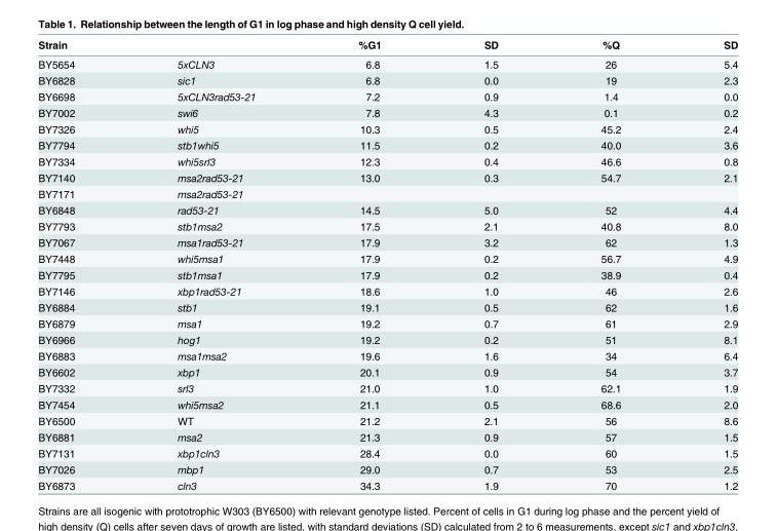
<table><thead><tr><td>Strain</td><td></td><td>%G1</td><td>SD</td><td>%Q</td><td>SD</td></tr></thead><tbody><tr><td>BY5654</td><td>5xCLN3</td><td>6.8</td><td>1.5</td><td>26</td><td>5.4</td></tr><tr><td>BY6828</td><td>sic1</td><td>6.8</td><td>0.0</td><td>19</td><td>2.3</td></tr><tr><td>BY6698</td><td>5xCLN3rad53-21</td><td>7.2</td><td>0.9</td><td>1.4</td><td>0.0</td></tr><tr><td>BY7002</td><td>swi6</td><td>7.8</td><td>4.3</td><td>0.1</td><td>0.2</td></tr><tr><td>BY7326</td><td>whi5</td><td>10.3</td><td>0.5</td><td>45.2</td><td>2.4</td></tr><tr><td>BY7794</td><td>stb1whi5</td><td>11.5</td><td>0.2</td><td>40.0</td><td>3.6</td></tr><tr><td>BY7334</td><td>whi5srl3</td><td>12.3</td><td>0.4</td><td>46.6</td><td>0.8</td></tr><tr><td>BY7140</td><td>msa2rad53-21</td><td>13.0</td><td>0.3</td><td>54.7</td><td>2.1</td></tr><tr><td>BY7171</td><td>msa2rad53-21</td><td></td><td></td><td></td><td></td></tr><tr><td>BY6848</td><td>rad53-21</td><td>14.5</td><td>5.0</td><td>52</td><td>4.4</td></tr><tr><td>BY7793</td><td>stb1msa2</td><td>17.5</td><td>2.1</td><td>40.8</td><td>8.0</td></tr><tr><td>BY7067</td><td>msa1rad53-21</td><td>17.9</td><td>3.2</td><td>62</td><td>1.3</td></tr><tr><td>BY7448</td><td>whi5msa1</td><td>17.9</td><td>0.2</td><td>56.7</td><td>4.9</td></tr><tr><td>BY7795</td><td>stb1msa1</td><td>17.9</td><td>0.2</td><td>38.9</td><td>0.4</td></tr><tr><td>BY7146</td><td>xbp1rad53-21</td><td>18.6</td><td>1.0</td><td>46</td><td>2.6</td></tr><tr><td>BY6884</td><td>stb1</td><td>19.1</td><td>0.5</td><td>62</td><td>1.6</td></tr><tr><td>BY6879</td><td>msa1</td><td>19.2</td><td>0.7</td><td>61</td><td>2.9</td></tr><tr><td>BY6966</td><td>hog1</td><td>19.2</td><td>0.2</td><td>51</td><td>8.1</td></tr><tr><td>BY6883</td><td>msa1msa2</td><td>19.6</td><td>1.6</td><td>34</td><td>6.4</td></tr><tr><td>BY6602</td><td>xbp1</td><td>20.1</td><td>0.9</td><td>54</td><td>3.7</td></tr><tr><td>BY7332</td><td>srl3</td><td>21.0</td><td>1.0</td><td>62.1</td><td>1.9</td></tr><tr><td>BY7454</td><td>whi5msa2</td><td>21.1</td><td>0.5</td><td>68.6</td><td>2.0</td></tr><tr><td>BY6500</td><td>WT</td><td>21.2</td><td>2.1</td><td>56</td><td>8.6</td></tr><tr><td>BY6881</td><td>msa2</td><td>21.3</td><td>0.9</td><td>57</td><td>1.5</td></tr><tr><td>BY7131</td><td>xbp1cln3</td><td>28.4</td><td>0.0</td><td>60</td><td>1.5</td></tr><tr><td>BY7026</td><td>mbp1</td><td>29.0</td><td>0.7</td><td>53</td><td>2.5</td></tr><tr><td>BY6873</td><td>cln3</td><td>34.3</td><td>1.9</td><td>70</td><td>1.2</td></tr></tbody></table>